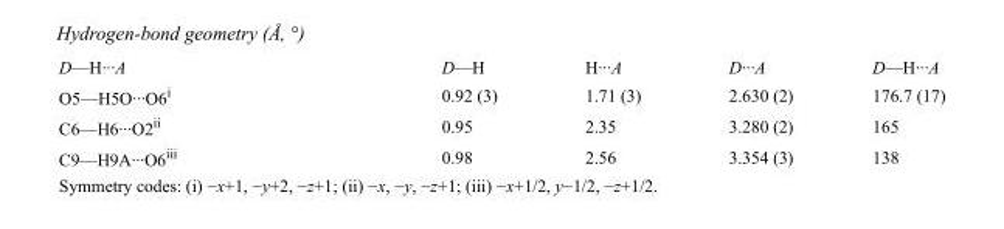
<table><tbody><tr><td>D—H···A</td><td>D—H</td><td>H···A</td><td>D···A</td><td>D—H···A</td></tr><tr><td>O5—H5O···O6<sup>i</sup></td><td>0.92 (3)</td><td>1.71 (3)</td><td>2.630 (2)</td><td>176.7 (17)</td></tr><tr><td>C6—H6···O2<sup>ii</sup></td><td>0.95</td><td>2.35</td><td>3.280 (2)</td><td>165</td></tr><tr><td>C9—H9A···O6<sup>iii</sup></td><td>0.98</td><td>2.56</td><td>3.354 (3)</td><td>138</td></tr></tbody></table>